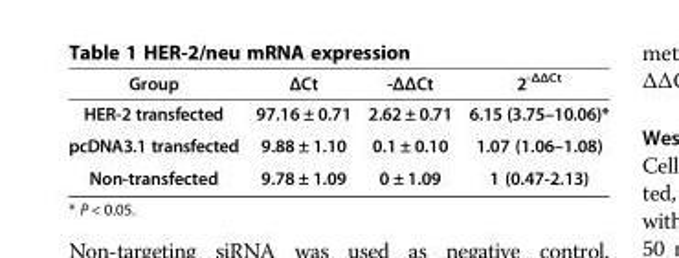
<table><thead><tr><td>Group</td><td>ΔCt</td><td>-ΔΔCt</td><td>2<sup>-ΔΔCt</sup></td></tr></thead><tbody><tr><td>HER-2 transfected</td><td>97.16 ± 0.71</td><td>2.62 ± 0.71</td><td>6.15 (3.75–10.06)*</td></tr><tr><td>pcDNA3.1 transfected</td><td>9.88 ± 1.10</td><td>0.1 ± 0.10</td><td>1.07 (1.06–1.08)</td></tr><tr><td>Non-transfected</td><td>9.78 ± 1.09</td><td>0 ± 1.09</td><td>1 (0.47-2.13)</td></tr></tbody></table>